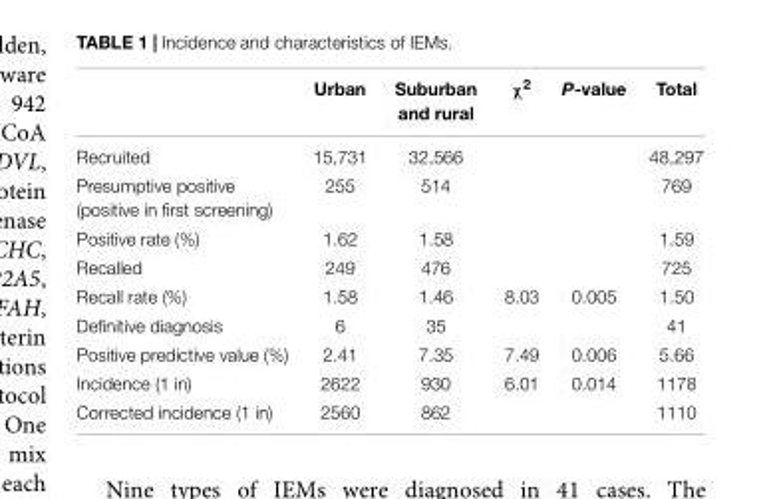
<table><thead><tr><td></td><td>Urban</td><td>Suburban and rural</td><td>χ<sup>2</sup></td><td>P-value</td><td>Total</td></tr></thead><tbody><tr><td>Recruited</td><td>15,731</td><td>32,566</td><td></td><td></td><td>48,297</td></tr><tr><td>Presumptive positive (positive in first screening)</td><td>255</td><td>514</td><td></td><td></td><td>769</td></tr><tr><td>Positive rate (%)</td><td>1.62</td><td>1.58</td><td></td><td></td><td>1.59</td></tr><tr><td>Recalled</td><td>249</td><td>476</td><td></td><td></td><td>725</td></tr><tr><td>Recall rate (%)</td><td>1.58</td><td>1.46</td><td>8.03</td><td>0.005</td><td>1.50</td></tr><tr><td>Definitive diagnosis</td><td>6</td><td>35</td><td></td><td></td><td>41</td></tr><tr><td>Positive predictive value (%)</td><td>2.41</td><td>7.35</td><td>7.49</td><td>0.006</td><td>5.66</td></tr><tr><td>Incidence (1 in)</td><td>2622</td><td>930</td><td>6.01</td><td>0.014</td><td>1178</td></tr><tr><td>Corrected incidence (1 in)</td><td>2560</td><td>862</td><td></td><td></td><td>1110</td></tr></tbody></table>